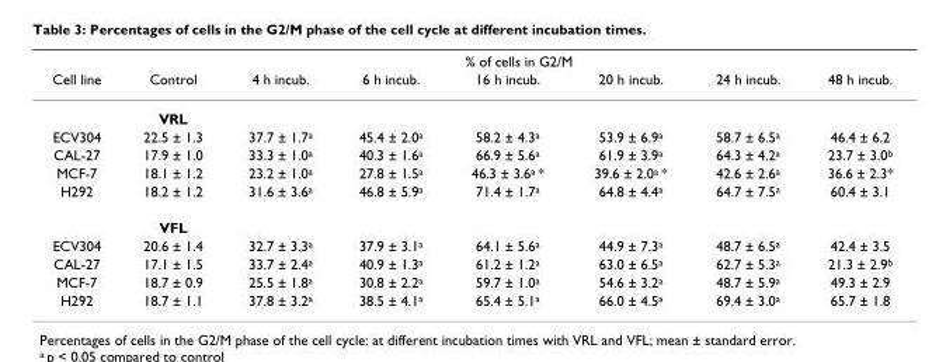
<table><thead><tr><td rowspan="2">Cell line</td><td colspan="7">% of cells in G2/M</td></tr><tr><td>Control</td><td>4 h incub.</td><td>6 h incub.</td><td>16 h incub.</td><td>20 h incub.</td><td>24 h incub.</td><td>48 h incub.</td></tr></thead><tbody><tr><td></td><td>VRL</td><td></td><td></td><td></td><td></td><td></td><td></td></tr><tr><td>ECV304</td><td>22.5 ± 1.3</td><td>37.7 ± 1.7<sup>a</sup></td><td>45.4 ± 2.0<sup>a</sup></td><td>58.2 ± 4.3<sup>a</sup></td><td>53.9 ± 6.9<sup>a</sup></td><td>58.7 ± 6.5<sup>a</sup></td><td>46.4 ± 6.2</td></tr><tr><td>CAL-27</td><td>17.9 ± 1.0</td><td>33.3 ± 1.0<sup>a</sup></td><td>40.3 ± 1.6<sup>a</sup></td><td>66.9 ± 5.6<sup>a</sup></td><td>61.9 ± 3.9<sup>a</sup></td><td>64.3 ± 4.2<sup>a</sup></td><td>23.7 ± 3.0<sup>b</sup></td></tr><tr><td>MCF-7</td><td>18.1 ± 1.2</td><td>23.2 ± 1.0<sup>a</sup></td><td>27.8 ± 1.5<sup>a</sup></td><td>46.3 ± 3.6<sup>a</sup> *</td><td>39.6 ± 2.0<sup>a</sup> *</td><td>42.6 ± 2.6<sup>a</sup></td><td>36.6 ± 2.3*</td></tr><tr><td rowspan="2">H292</td><td>18.2 ± 1.2</td><td>31.6 ± 3.6<sup>a</sup></td><td>46.8 ± 5.9<sup>a</sup></td><td>71.4 ± 1.7<sup>a</sup></td><td>64.8 ± 4.4<sup>a</sup></td><td>64.7 ± 7.5<sup>a</sup></td><td>60.4 ± 3.1</td></tr><tr><td>VFL</td><td></td><td></td><td></td><td></td><td></td><td></td></tr><tr><td>ECV304</td><td>20.6 ± 1.4</td><td>32.7 ± 3.3<sup>a</sup></td><td>37.9 ± 3.1<sup>a</sup></td><td>64.1 ± 5.6<sup>a</sup></td><td>44.9 ± 7.3<sup>a</sup></td><td>48.7 ± 6.5<sup>a</sup></td><td>42.4 ± 3.5</td></tr><tr><td>CAL-27</td><td>17.1 ± 1.5</td><td>33.7 ± 2.4<sup>a</sup></td><td>40.9 ± 1.3<sup>a</sup></td><td>61.2 ± 1.2<sup>a</sup></td><td>63.0 ± 6.5<sup>a</sup></td><td>62.7 ± 5.3<sup>a</sup></td><td>21.3 ± 2.9<sup>b</sup></td></tr><tr><td>MCF-7</td><td>18.7 ± 0.9</td><td>25.5 ± 1.8<sup>a</sup></td><td>30.8 ± 2.2<sup>a</sup></td><td>59.7 ± 1.0<sup>a</sup></td><td>54.6 ± 3.2<sup>a</sup></td><td>48.7 ± 5.9<sup>a</sup></td><td>49.3 ± 2.9</td></tr><tr><td>H292</td><td>18.7 ± 1.1</td><td>37.8 ± 3.2<sup>a</sup></td><td>38.5 ± 4.1<sup>a</sup></td><td>65.4 ± 5.1<sup>a</sup></td><td>66.0 ± 4.5<sup>a</sup></td><td>69.4 ± 3.0<sup>a</sup></td><td>65.7 ± 1.8</td></tr></tbody></table>